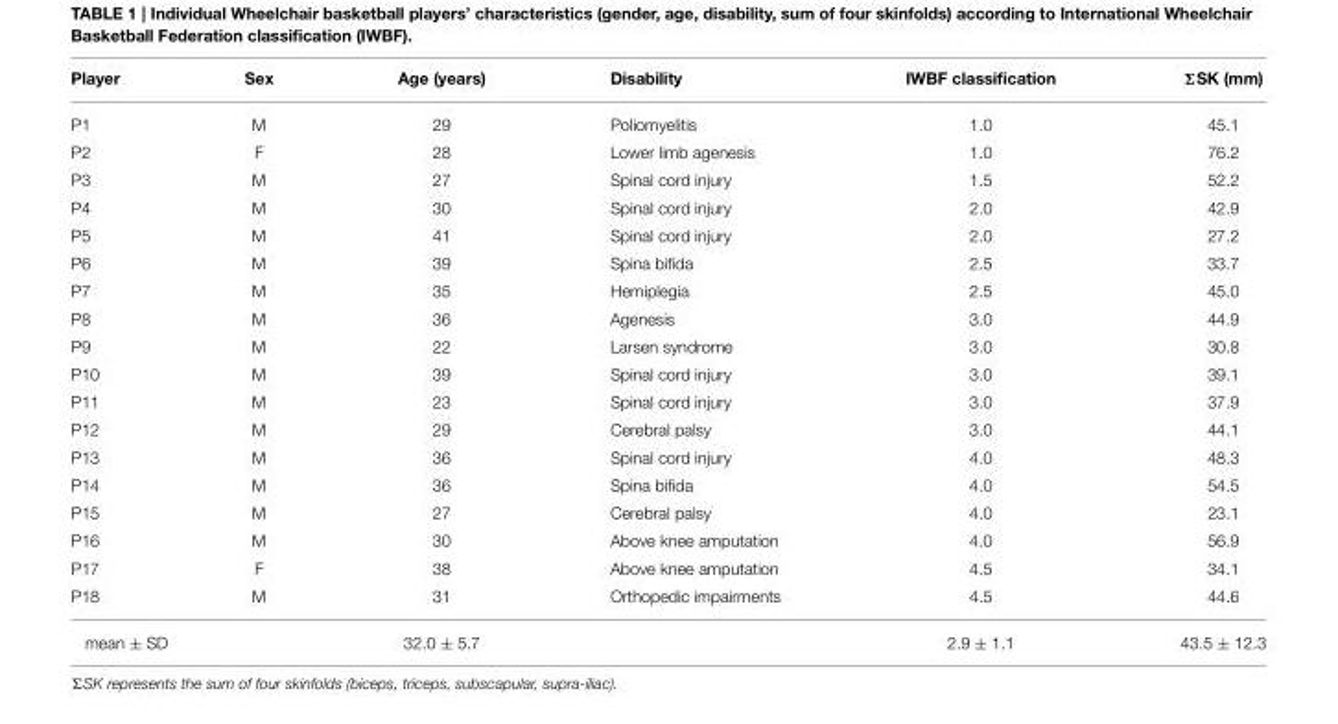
<table><thead><tr><td>Player</td><td>Sex</td><td>Age (years)</td><td>Disability</td><td>IWBF classification</td><td>ΣSK (mm)</td></tr></thead><tbody><tr><td>P1</td><td>M</td><td>29</td><td>Poliomyelitis</td><td>1.0</td><td>45.1</td></tr><tr><td>P2</td><td>F</td><td>28</td><td>Lower limb agenesis</td><td>1.0</td><td>76.2</td></tr><tr><td>P3</td><td>M</td><td>27</td><td>Spinal cord injury</td><td>1.5</td><td>52.2</td></tr><tr><td>P4</td><td>M</td><td>30</td><td>Spinal cord injury</td><td>2.0</td><td>42.9</td></tr><tr><td>P5</td><td>M</td><td>41</td><td>Spinal cord injury</td><td>2.0</td><td>27.2</td></tr><tr><td>P6</td><td>M</td><td>39</td><td>Spina bifida</td><td>2.5</td><td>33.7</td></tr><tr><td>P7</td><td>M</td><td>35</td><td>Hemiplegia</td><td>2.5</td><td>45.0</td></tr><tr><td>P8</td><td>M</td><td>36</td><td>Agenesis</td><td>3.0</td><td>44.9</td></tr><tr><td>P9</td><td>M</td><td>22</td><td>Larsen syndrome</td><td>3.0</td><td>30.8</td></tr><tr><td>P10</td><td>M</td><td>39</td><td>Spinal cord injury</td><td>3.0</td><td>39.1</td></tr><tr><td>P11</td><td>M</td><td>23</td><td>Spinal cord injury</td><td>3.0</td><td>37.9</td></tr><tr><td>P12</td><td>M</td><td>29</td><td>Cerebral palsy</td><td>3.0</td><td>44.1</td></tr><tr><td>P13</td><td>M</td><td>36</td><td>Spinal cord injury</td><td>4.0</td><td>48.3</td></tr><tr><td>P14</td><td>M</td><td>36</td><td>Spina bifida</td><td>4.0</td><td>54.5</td></tr><tr><td>P15</td><td>M</td><td>27</td><td>Cerebral palsy</td><td>4.0</td><td>23.1</td></tr><tr><td>P16</td><td>M</td><td>30</td><td>Above knee amputation</td><td>4.0</td><td>56.9</td></tr><tr><td>P17</td><td>F</td><td>38</td><td>Above knee amputation</td><td>4.5</td><td>34.1</td></tr><tr><td>P18</td><td>M</td><td>31</td><td>Orthopedic impairments</td><td>4.5</td><td>44.6</td></tr><tr><td colspan="2">mean ± SD</td><td>32.0 ± 5.7</td><td></td><td>2.9 ± 1.1</td><td>43.5 ± 12.3</td></tr></tbody></table>